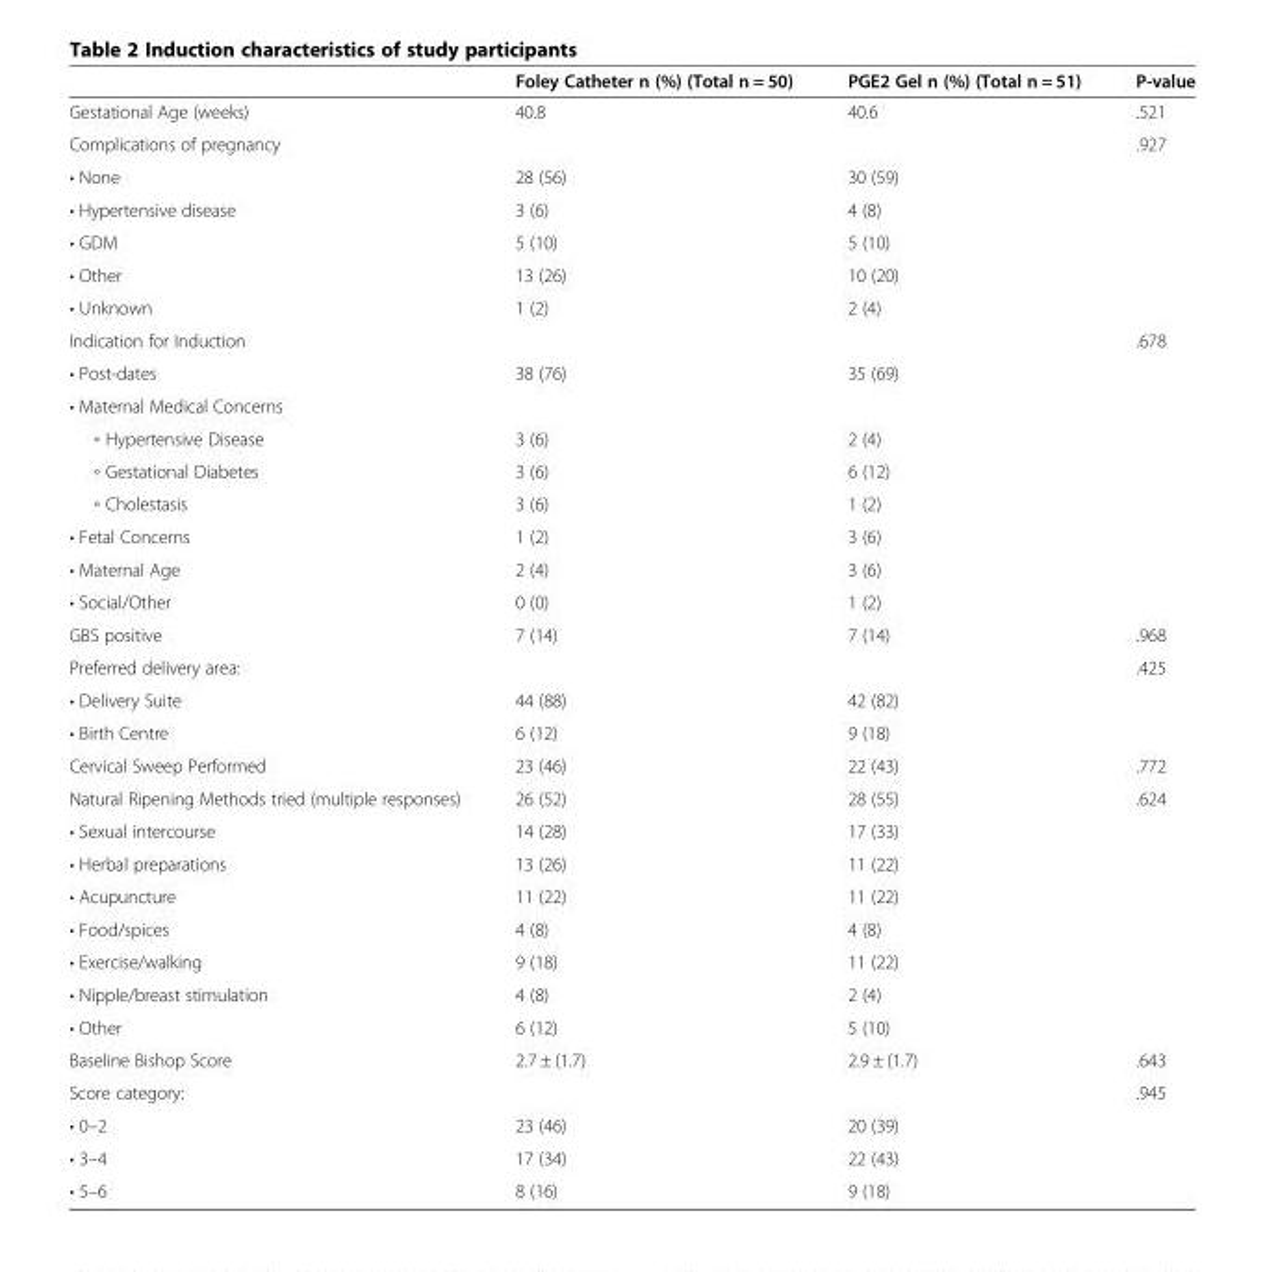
<table><thead><tr><td></td><td>Foley Catheter n (%) (Total n = 50)</td><td>PGE2 Gel n (%) (Total n = 51)</td><td>P-value</td></tr></thead><tbody><tr><td>Gestational Age (weeks)</td><td>40.8</td><td>40.6</td><td>.521</td></tr><tr><td colspan="3">Complications of pregnancy</td><td rowspan="6">.927</td></tr><tr><td>• None</td><td>28 (56)</td><td>30 (59)</td></tr><tr><td>• Hypertensive disease</td><td>3 (6)</td><td>4 (8)</td></tr><tr><td>• GDM</td><td>5 (10)</td><td>5 (10)</td></tr><tr><td>• Other</td><td>13 (26)</td><td>10 (20)</td></tr><tr><td>• Unknown</td><td>1 (2)</td><td>2 (4)</td></tr><tr><td colspan="3">Indication for Induction</td><td rowspan="2">.678</td></tr><tr><td>• Post-dates</td><td>38 (76)</td><td>35 (69)</td></tr><tr><td colspan="4">• Maternal Medical Concerns</td></tr><tr><td>◦ Hypertensive Disease</td><td>3 (6)</td><td>2 (4)</td><td rowspan="6"></td></tr><tr><td>◦ Gestational Diabetes</td><td>3 (6)</td><td>6 (12)</td></tr><tr><td>◦ Cholestasis</td><td>3 (6)</td><td>1 (2)</td></tr><tr><td>• Fetal Concerns</td><td>1 (2)</td><td>3 (6)</td></tr><tr><td>• Maternal Age</td><td>2 (4)</td><td>3 (6)</td></tr><tr><td>• Social/Other</td><td>0 (0)</td><td>1 (2)</td></tr><tr><td>GBS positive</td><td>7 (14)</td><td>7 (14)</td><td>.968</td></tr><tr><td colspan="3">Preferred delivery area:</td><td rowspan="3">.425</td></tr><tr><td>• Delivery Suite</td><td>44 (88)</td><td>42 (82)</td></tr><tr><td>• Birth Centre</td><td>6 (12)</td><td>9 (18)</td></tr><tr><td>Cervical Sweep Performed</td><td>23 (46)</td><td>22 (43)</td><td>.772</td></tr><tr><td>Natural Ripening Methods tried (multiple responses)</td><td>26 (52)</td><td>28 (55)</td><td rowspan="8">.624</td></tr><tr><td>• Sexual intercourse</td><td>14 (28)</td><td>17 (33)</td></tr><tr><td>• Herbal preparations</td><td>13 (26)</td><td>11 (22)</td></tr><tr><td>• Acupuncture</td><td>11 (22)</td><td>11 (22)</td></tr><tr><td>• Food/spices</td><td>4 (8)</td><td>4 (8)</td></tr><tr><td>• Exercise/walking</td><td>9 (18)</td><td>11 (22)</td></tr><tr><td>• Nipple/breast stimulation</td><td>4 (8)</td><td>2 (4)</td></tr><tr><td>• Other</td><td>6 (12)</td><td>5 (10)</td></tr><tr><td>Baseline Bishop Score</td><td>2.7 ± (1.7)</td><td>2.9 ± (1.7)</td><td>.643</td></tr><tr><td colspan="3">Score category:</td><td rowspan="3">.945</td></tr><tr><td>• 0–2</td><td>23 (46)</td><td>20 (39)</td></tr><tr><td>• 3–4</td><td>17 (34)</td><td>22 (43)</td></tr><tr><td>• 5–6</td><td>8 (16)</td><td>9 (18)</td><td></td></tr></tbody></table>